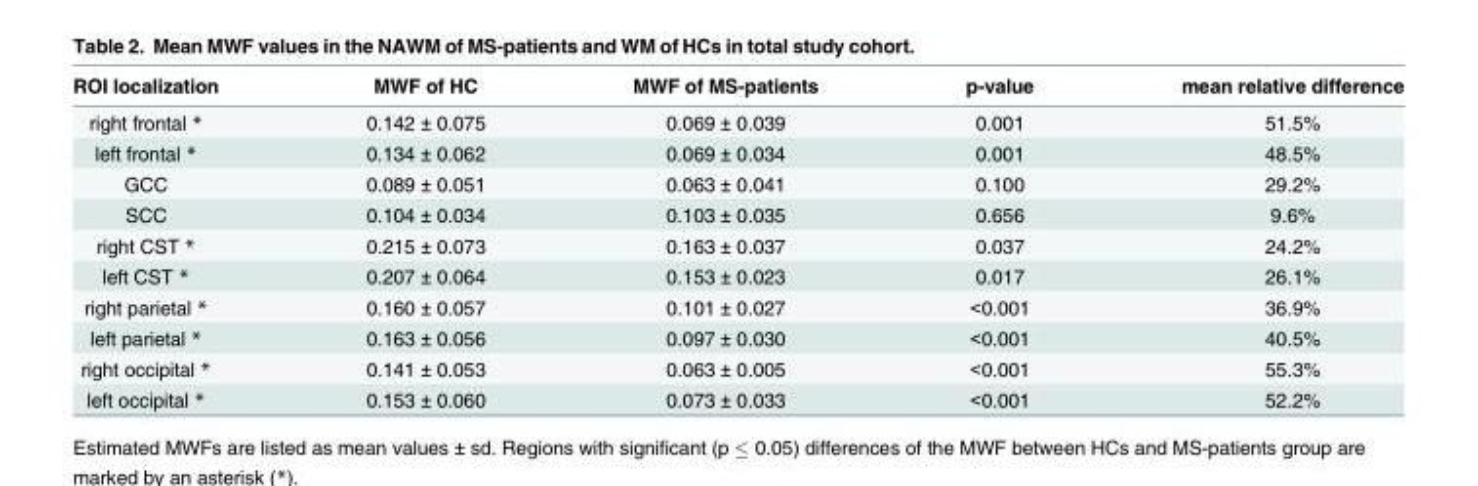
<table><thead><tr><td>ROI localization</td><td>MWF of HC</td><td>MWF of MS-patients</td><td>p-value</td><td>mean relative difference</td></tr></thead><tbody><tr><td>right frontal *</td><td>0.142 ± 0.075</td><td>0.069 ± 0.039</td><td>0.001</td><td>51.5%</td></tr><tr><td>left frontal *</td><td>0.134 ± 0.062</td><td>0.069 ± 0.034</td><td>0.001</td><td>48.5%</td></tr><tr><td>GCC</td><td>0.089 ± 0.051</td><td>0.063 ± 0.041</td><td>0.100</td><td>29.2%</td></tr><tr><td>SCC</td><td>0.104 ± 0.034</td><td>0.103 ± 0.035</td><td>0.656</td><td>9.6%</td></tr><tr><td>right CST *</td><td>0.215 ± 0.073</td><td>0.163 ± 0.037</td><td>0.037</td><td>24.2%</td></tr><tr><td>left CST *</td><td>0.207 ± 0.064</td><td>0.153 ± 0.023</td><td>0.017</td><td>26.1%</td></tr><tr><td>right parietal *</td><td>0.160 ± 0.057</td><td>0.101 ± 0.027</td><td>&lt;0.001</td><td>36.9%</td></tr><tr><td>left parietal *</td><td>0.163 ± 0.056</td><td>0.097 ± 0.030</td><td>&lt;0.001</td><td>40.5%</td></tr><tr><td>right occipital *</td><td>0.141 ± 0.053</td><td>0.063 ± 0.005</td><td>&lt;0.001</td><td>55.3%</td></tr><tr><td>left occipital *</td><td>0.153 ± 0.060</td><td>0.073 ± 0.033</td><td>&lt;0.001</td><td>52.2%</td></tr></tbody></table>